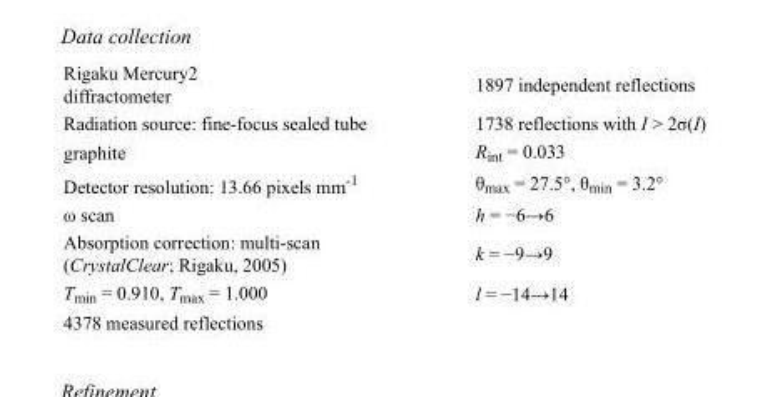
<table><tbody><tr><td>Rigaku Mercury2 diffractometer</td><td>1897 independent reflections</td></tr><tr><td>Radiation source: fine-focus sealed tube</td><td>1738 reflections with I &gt; 2σ(I)</td></tr><tr><td>graphite</td><td>R<sub>int</sub> = 0.033</td></tr><tr><td>Detector resolution: 13.66 pixels mm<sup>-1</sup></td><td>θ<sub>max</sub> = 27.5°, θ<sub>min</sub> = 3.2°</td></tr><tr><td>ω scan</td><td>h = −6→6</td></tr><tr><td>Absorption correction: multi-scan (CrystalClear; Rigaku, 2005)</td><td>k = −9→9</td></tr><tr><td>T<sub>min</sub> = 0.910, T<sub>max</sub> = 1.000</td><td>l = −14→14</td></tr><tr><td>4378 measured reflections</td><td></td></tr></tbody></table>